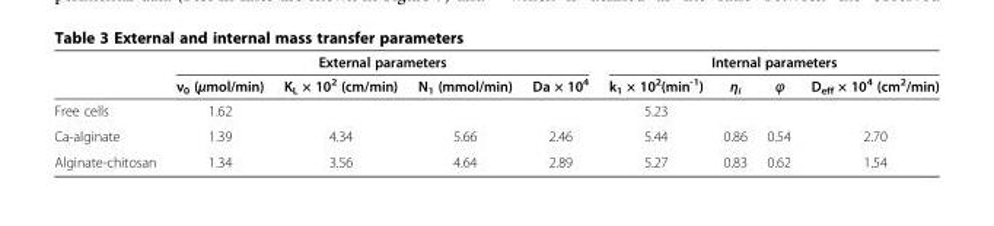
<table><thead><tr><td rowspan="2"></td><td colspan="4">External parameters</td><td colspan="4">Internal parameters</td></tr><tr><td>ν<sub>0</sub> (μmol/min)</td><td>K<sub>L</sub> × 10<sup>2</sup> (cm/min)</td><td>N<sub>1</sub> (mmol/min)</td><td>Da × 10<sup>4</sup></td><td>k<sub>1</sub> × 10<sup>2</sup>(min<sup>-1</sup>)</td><td>η<sub>i</sub></td><td>ϕ</td><td>D<sub>eff</sub> × 10<sup>4</sup> (cm<sup>2</sup>/min)</td></tr></thead><tbody><tr><td>Free cells</td><td>1.62</td><td></td><td></td><td></td><td>5.23</td><td></td><td></td><td></td></tr><tr><td>Ca-alginate</td><td>1.39</td><td>4.34</td><td>5.66</td><td>2.46</td><td>5.44</td><td>0.86</td><td>0.54</td><td>2.70</td></tr><tr><td>Alginate-chitosan</td><td>1.34</td><td>3.56</td><td>4.64</td><td>2.89</td><td>5.27</td><td>0.83</td><td>0.62</td><td>1.54</td></tr></tbody></table>